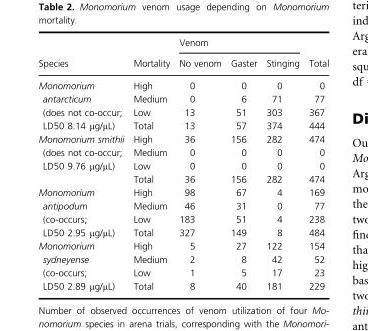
<table><thead><tr><td rowspan="2">Species</td><td rowspan="2">Mortality</td><td colspan="3">Venom</td><td rowspan="2">Total</td></tr><tr><td>No venom</td><td>Gaster</td><td>Stinging</td></tr></thead><tbody><tr><td rowspan="4">Monomorium antarcticum (does not co-occur; LD50 8.14 μg/μL)</td><td>High</td><td>0</td><td>0</td><td>0</td><td>0</td></tr><tr><td>Medium</td><td>0</td><td>6</td><td>71</td><td>77</td></tr><tr><td>Low</td><td>13</td><td>51</td><td>303</td><td>367</td></tr><tr><td>Total</td><td>13</td><td>57</td><td>374</td><td>444</td></tr><tr><td rowspan="4">Monomorium smithii (does not co-occur; LD50 9.76 μg/μL)</td><td>High</td><td>36</td><td>156</td><td>282</td><td>474</td></tr><tr><td>Medium</td><td>0</td><td>0</td><td>0</td><td>0</td></tr><tr><td>Low</td><td>0</td><td>0</td><td>0</td><td>0</td></tr><tr><td>Total</td><td>36</td><td>156</td><td>282</td><td>474</td></tr><tr><td rowspan="4">Monomorium antipodum (co-occurs; LD50 2.95 μg/μL)</td><td>High</td><td>98</td><td>67</td><td>4</td><td>169</td></tr><tr><td>Medium</td><td>46</td><td>31</td><td>0</td><td>77</td></tr><tr><td>Low</td><td>183</td><td>51</td><td>4</td><td>238</td></tr><tr><td>Total</td><td>327</td><td>149</td><td>8</td><td>484</td></tr><tr><td rowspan="4">Monomorium sydneyense (co-occurs; LD50 2.89 μg/μL)</td><td>High</td><td>5</td><td>27</td><td>122</td><td>154</td></tr><tr><td>Medium</td><td>2</td><td>8</td><td>42</td><td>52</td></tr><tr><td>Low</td><td>1</td><td>5</td><td>17</td><td>23</td></tr><tr><td>Total</td><td>8</td><td>40</td><td>181</td><td>229</td></tr></tbody></table>